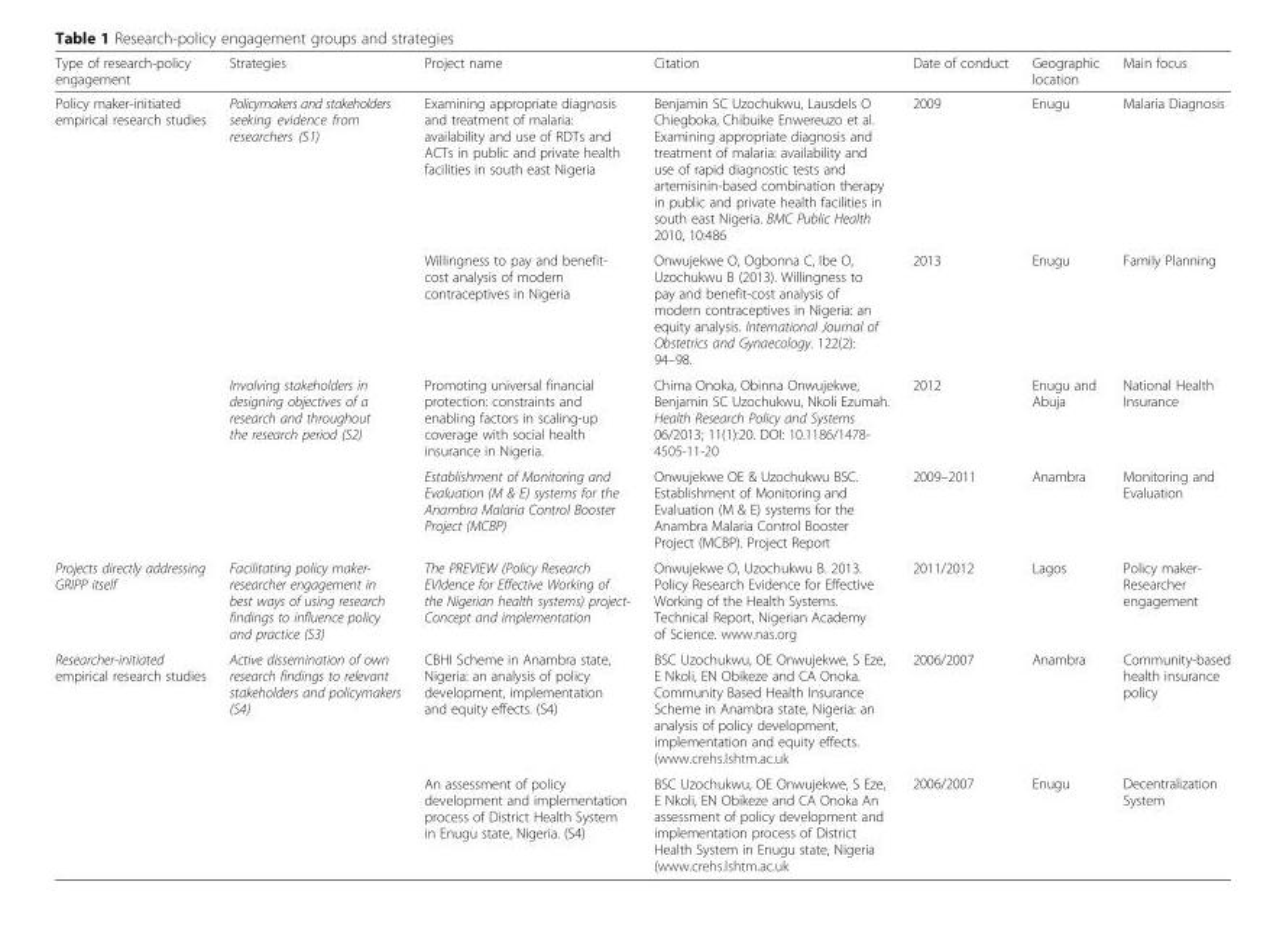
<table><thead><tr><td>Type of research-policy engagement</td><td>Strategies</td><td>Project name</td><td>Citation</td><td>Date of conduct</td><td>Geographic location</td><td>Main focus</td></tr></thead><tbody><tr><td rowspan="4">Policy maker-initiated empirical research studies</td><td rowspan="2">Policymakers and stakeholders seeking evidence from researchers (S1)</td><td>Examining appropriate diagnosis and treatment of malaria: availability and use of RDTs and ACTs in public and private health facilities in south east Nigeria</td><td>Benjamin SC Uzochukwu, Lausdels O Chiegboka, Chibuike Enwereuzo et al. Examining appropriate diagnosis and treatment of malaria: availability and use of rapid diagnostic tests and artemisinin-based combination therapy in public and private health facilities in south east Nigeria. BMC Public Health 2010, 10:486</td><td>2009</td><td>Enugu</td><td>Malaria Diagnosis</td></tr><tr><td>Willingness to pay and benefit- cost analysis of modern contraceptives in Nigeria</td><td>Onwujekwe O, Ogbonna C, Ibe O, Uzochukwu B (2013). Willingness to pay and benefit-cost analysis of modern contraceptives in Nigeria: an equity analysis. International Journal of Obstetrics and Gynaecology. 122(2): 94–98.</td><td>2013</td><td>Enugu</td><td>Family Planning</td></tr><tr><td>Involving stakeholders in designing objectives of a research and throughout the research period (S2)</td><td>Promoting universal financial protection: constraints and enabling factors in scaling-up coverage with social health insurance in Nigeria.</td><td>Chima Onoka, Obinna Onwujekwe, Benjamin SC Uzochukwu, Nkoli Ezumah. Health Research Policy and Systems 06/2013; 11(1):20. DOI: 10.1186/1478- 4505-11-20</td><td>2012</td><td>Enugu and Abuja</td><td>National Health Insurance</td></tr><tr><td></td><td>Establishment of Monitoring and Evaluation (M &amp; E) systems for the Anambra Malaria Control Booster Project (MCBP)</td><td>Onwujekwe OE &amp; Uzochukwu BSC. Establishment of Monitoring and Evaluation (M &amp; E) systems for the Anambra Malaria Control Booster Project (MCBP). Project Report</td><td>2009–2011</td><td>Anambra</td><td>Monitoring and Evaluation</td></tr><tr><td>Projects directly addressing GRIPP itself</td><td>Facilitating policy maker- researcher engagement in best ways of using research findings to influence policy and practice (S3)</td><td>The PREVIEW (Policy Research EVIdence for Effective Working of the Nigerian health systems) project- Concept and implementation</td><td>Onwujekwe O, Uzochukwu B. 2013. Policy Research Evidence for Effective Working of the Health Systems. Technical Report, Nigerian Academy of Science. www.nas.org</td><td>2011/2012</td><td>Lagos</td><td>Policy maker- Researcher engagement</td></tr><tr><td rowspan="2">Researcher-initiated empirical research studies</td><td rowspan="2">Active dissemination of own research findings to relevant stakeholders and policymakers (S4)</td><td>CBHI Scheme in Anambra state, Nigeria: an analysis of policy development, implementation and equity effects. (S4)</td><td>BSC Uzochukwu, OE Onwujekwe, S Eze, E Nkoli, EN Obikeze and CA Onoka. Community Based Health Insurance Scheme in Anambra state, Nigeria: an analysis of policy development, implementation and equity effects. (www.crehs.lshtm.ac.uk</td><td>2006/2007</td><td>Anambra</td><td>Community-based health insurance policy</td></tr><tr><td>An assessment of policy development and implementation process of District Health System in Enugu state, Nigeria. (S4)</td><td>BSC Uzochukwu, OE Onwujekwe, S Eze, E Nkoli, EN Obikeze and CA Onoka An assessment of policy development and implementation process of District Health System in Enugu state, Nigeria (www.crehs.lshtm.ac.uk</td><td>2006/2007</td><td>Enugu</td><td>Decentralization System</td></tr></tbody></table>